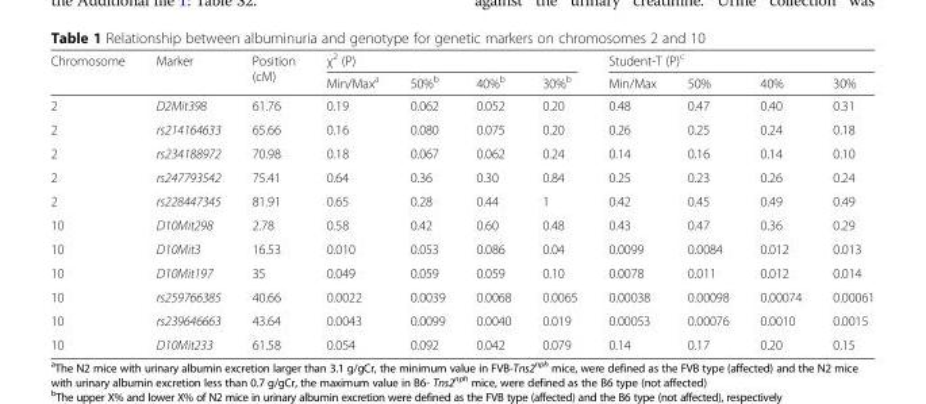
<table><thead><tr><td rowspan="2">Chromosome</td><td rowspan="2">Marker</td><td rowspan="2">Position (cM)</td><td colspan="4">χ<sup>2</sup> (P)</td><td colspan="4">Student-T (P)<sup>c</sup></td></tr><tr><td>Min/Max<sup>a</sup></td><td>50%<sup>b</sup></td><td>40%<sup>b</sup></td><td>30%<sup>b</sup></td><td>Min/Max</td><td>50%</td><td>40%</td><td>30%</td></tr></thead><tbody><tr><td>2</td><td>D2Mit398</td><td>61.76</td><td>0.19</td><td>0.062</td><td>0.052</td><td>0.20</td><td>0.48</td><td>0.47</td><td>0.40</td><td>0.31</td></tr><tr><td>2</td><td>rs214164633</td><td>65.66</td><td>0.16</td><td>0.080</td><td>0.075</td><td>0.20</td><td>0.26</td><td>0.25</td><td>0.24</td><td>0.18</td></tr><tr><td>2</td><td>rs234188972</td><td>70.98</td><td>0.18</td><td>0.067</td><td>0.062</td><td>0.24</td><td>0.14</td><td>0.16</td><td>0.14</td><td>0.10</td></tr><tr><td>2</td><td>rs247793542</td><td>75.41</td><td>0.64</td><td>0.36</td><td>0.30</td><td>0.84</td><td>0.25</td><td>0.23</td><td>0.26</td><td>0.24</td></tr><tr><td>2</td><td>rs228447345</td><td>81.91</td><td>0.65</td><td>0.28</td><td>0.44</td><td>1</td><td>0.42</td><td>0.45</td><td>0.49</td><td>0.49</td></tr><tr><td>10</td><td>D10Mit298</td><td>2.78</td><td>0.58</td><td>0.42</td><td>0.60</td><td>0.48</td><td>0.43</td><td>0.47</td><td>0.36</td><td>0.29</td></tr><tr><td>10</td><td>D10Mit3</td><td>16.53</td><td>0.010</td><td>0.053</td><td>0.086</td><td>0.04</td><td>0.0099</td><td>0.0084</td><td>0.012</td><td>0.013</td></tr><tr><td>10</td><td>D10Mit197</td><td>35</td><td>0.049</td><td>0.059</td><td>0.059</td><td>0.10</td><td>0.0078</td><td>0.011</td><td>0.012</td><td>0.014</td></tr><tr><td>10</td><td>rs259766385</td><td>40.66</td><td>0.0022</td><td>0.0039</td><td>0.0068</td><td>0.0065</td><td>0.00038</td><td>0.00098</td><td>0.00074</td><td>0.00061</td></tr><tr><td>10</td><td>rs239646663</td><td>43.64</td><td>0.0043</td><td>0.0099</td><td>0.0040</td><td>0.019</td><td>0.00053</td><td>0.00076</td><td>0.0010</td><td>0.0015</td></tr><tr><td>10</td><td>D10Mit233</td><td>61.58</td><td>0.054</td><td>0.092</td><td>0.042</td><td>0.079</td><td>0.14</td><td>0.17</td><td>0.20</td><td>0.15</td></tr></tbody></table>